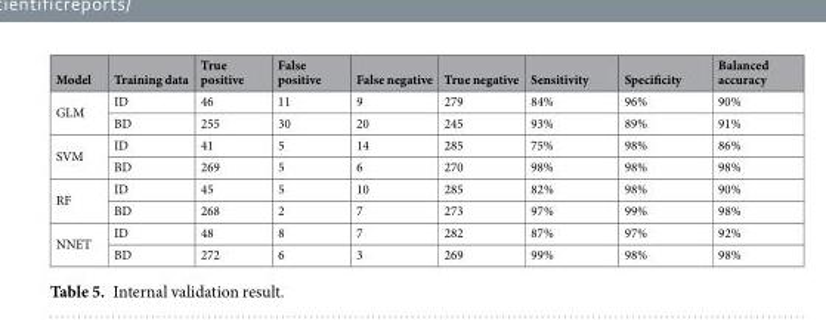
<table><thead><tr><td>Model</td><td>Training data</td><td>True positive</td><td>False positive</td><td>False negative</td><td>True negative</td><td>Sensitivity</td><td>Specificity</td><td>Balanced accuracy</td></tr></thead><tbody><tr><td rowspan="2">GLM</td><td>ID</td><td>46</td><td>11</td><td>9</td><td>279</td><td>84%</td><td>96%</td><td>90%</td></tr><tr><td>BD</td><td>255</td><td>30</td><td>20</td><td>245</td><td>93%</td><td>89%</td><td>91%</td></tr><tr><td rowspan="2">SVM</td><td>ID</td><td>41</td><td>5</td><td>14</td><td>285</td><td>75%</td><td>98%</td><td>86%</td></tr><tr><td>BD</td><td>269</td><td>5</td><td>6</td><td>270</td><td>98%</td><td>98%</td><td>98%</td></tr><tr><td rowspan="2">RF</td><td>ID</td><td>45</td><td>5</td><td>10</td><td>285</td><td>82%</td><td>98%</td><td>90%</td></tr><tr><td>BD</td><td>268</td><td>2</td><td>7</td><td>273</td><td>97%</td><td>99%</td><td>98%</td></tr><tr><td rowspan="2">NNET</td><td>ID</td><td>48</td><td>8</td><td>7</td><td>282</td><td>87%</td><td>97%</td><td>92%</td></tr><tr><td>BD</td><td>272</td><td>6</td><td>3</td><td>269</td><td>99%</td><td>98%</td><td>98%</td></tr></tbody></table>